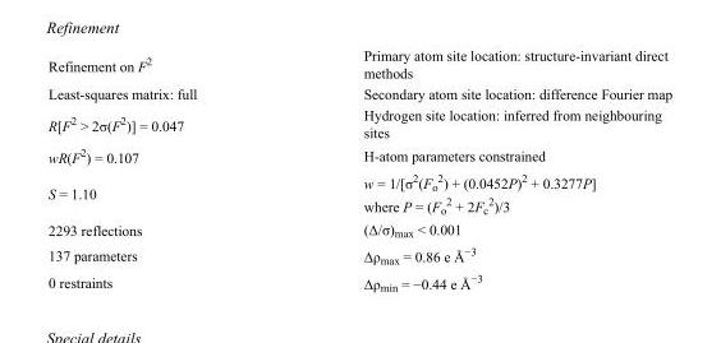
<table><tbody><tr><td>Refinement on F<sup>2</sup></td><td>Primary atom site location: structure-invariant direct methods</td></tr><tr><td>Least-squares matrix: full</td><td>Secondary atom site location: difference Fourier map</td></tr><tr><td>R[F<sup>2</sup> &gt; 2σ(F<sup>2</sup>)] = 0.047</td><td>Hydrogen site location: inferred from neighbouring sites</td></tr><tr><td>wR(F<sup>2</sup>) = 0.107</td><td>H-atom parameters constrained</td></tr><tr><td>S = 1.10</td><td>w = 1/[σ<sup>2</sup>(F<sub>o</sub> <sup>2</sup>) + (0.0452P)<sup>2</sup> + 0.3277P] where P = (F<sub>o</sub> <sup>2</sup> + 2F<sub>c</sub> <sup>2</sup>)/3</td></tr><tr><td>2293 reflections</td><td>(Δ/σ)<sub>max</sub> &lt; 0.001</td></tr><tr><td>137 parameters</td><td>Δρ<sub>max</sub> = 0.86 e Å<sup>−3</sup></td></tr><tr><td>0 restraints</td><td>Δρ<sub>min</sub> = −0.44 e Å<sup>−3</sup></td></tr></tbody></table>